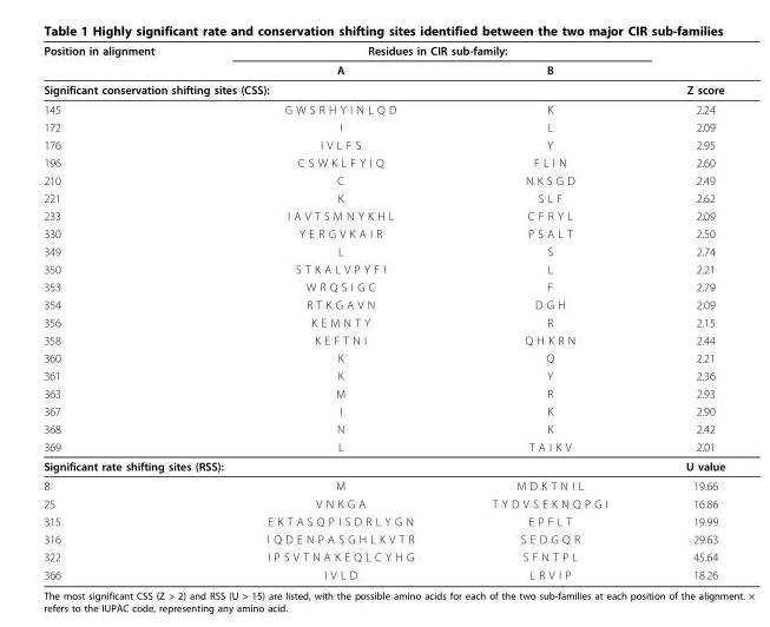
<table><thead><tr><td rowspan="2">Position in alignment</td><td colspan="2">Residues in CIR sub-family:</td><td rowspan="2"></td></tr><tr><td>A</td><td>B</td></tr></thead><tbody><tr><td colspan="2">Significant conservation shifting sites (CSS):</td><td></td><td>Z score</td></tr><tr><td>145</td><td>G W S R H Y I N L Q D</td><td>K</td><td>2.24</td></tr><tr><td>172</td><td>I</td><td>L</td><td>2.09</td></tr><tr><td>176</td><td>I V L F S</td><td>Y</td><td>2.95</td></tr><tr><td>196</td><td>C S W K L F Y I Q</td><td>F L I N</td><td>2.60</td></tr><tr><td>210</td><td>C</td><td>N K S G D</td><td>2.49</td></tr><tr><td>221</td><td>K</td><td>S L F</td><td>2.62</td></tr><tr><td>233</td><td>I A V T S M N Y K H L</td><td>C F R Y L</td><td>2.09</td></tr><tr><td>330</td><td>Y E R G V K A I R</td><td>P S A L T</td><td>2.50</td></tr><tr><td>349</td><td>L</td><td>S</td><td>2.74</td></tr><tr><td>350</td><td>S T K A L V P Y F I</td><td>L</td><td>2.21</td></tr><tr><td>353</td><td>W R Q S I G C</td><td>F</td><td>2.79</td></tr><tr><td>354</td><td>R T K G A V N</td><td>D G H</td><td>2.09</td></tr><tr><td>356</td><td>K E M N T Y</td><td>R</td><td>2.15</td></tr><tr><td>358</td><td>K E F T N I</td><td>Q H K R N</td><td>2.44</td></tr><tr><td>360</td><td>K</td><td>Q</td><td>2.21</td></tr><tr><td>361</td><td>K</td><td>Y</td><td>2.36</td></tr><tr><td>363</td><td>M</td><td>R</td><td>2.93</td></tr><tr><td>367</td><td>I</td><td>K</td><td>2.90</td></tr><tr><td>368</td><td>N</td><td>K</td><td>2.42</td></tr><tr><td>369</td><td>L</td><td>T A I K V</td><td>2.01</td></tr><tr><td colspan="2">Significant rate shifting sites (RSS):</td><td></td><td>U value</td></tr><tr><td>8</td><td>M</td><td>M D K T N I L</td><td>19.66</td></tr><tr><td>25</td><td>V N K G A</td><td>T Y D V S E K N Q P G I</td><td>16.86</td></tr><tr><td>315</td><td>E K T A S Q P I S D R L Y G N</td><td>E P F L T</td><td>19.99</td></tr><tr><td>316</td><td>I Q D E N P A S G H L K V T R</td><td>S E D G Q R</td><td>29.63</td></tr><tr><td>322</td><td>I P S V T N A K E Q L C Y H G</td><td>S F N T P L</td><td>45.64</td></tr><tr><td>366</td><td>I V L D</td><td>L R V I P</td><td>18.26</td></tr></tbody></table>